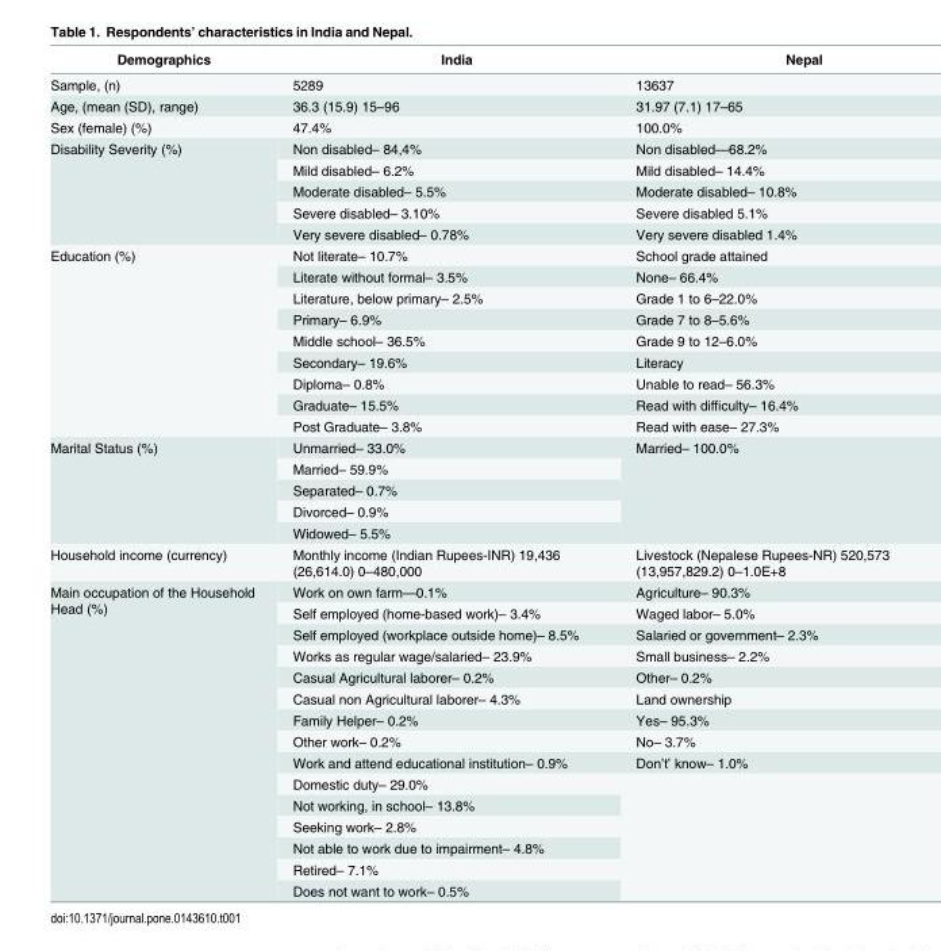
<table><thead><tr><td>Demographics</td><td>India</td><td>Nepal</td></tr></thead><tbody><tr><td>Sample, (n)</td><td>5289</td><td>13637</td></tr><tr><td>Age, (mean (SD), range)</td><td>36.3 (15.9) 15–96</td><td>31.97 (7.1) 17–65</td></tr><tr><td>Sex (female) (%)</td><td>47.4%</td><td>100.0%</td></tr><tr><td rowspan="5">Disability Severity (%)</td><td>Non disabled– 84,4%</td><td>Non disabled—68.2%</td></tr><tr><td>Mild disabled– 6.2%</td><td>Mild disabled– 14.4%</td></tr><tr><td>Moderate disabled– 5.5%</td><td>Moderate disabled– 10.8%</td></tr><tr><td>Severe disabled– 3.10%</td><td>Severe disabled 5.1%</td></tr><tr><td>Very severe disabled– 0.78%</td><td>Very severe disabled 1.4%</td></tr><tr><td rowspan="9">Education (%)</td><td>Not literate– 10.7%</td><td>School grade attained</td></tr><tr><td>Literate without formal– 3.5%</td><td>None– 66.4%</td></tr><tr><td>Literature, below primary– 2.5%</td><td>Grade 1 to 6–22.0%</td></tr><tr><td>Primary– 6.9%</td><td>Grade 7 to 8–5.6%</td></tr><tr><td>Middle school– 36.5%</td><td>Grade 9 to 12–6.0%</td></tr><tr><td>Secondary– 19.6%</td><td>Literacy</td></tr><tr><td>Diploma– 0.8%</td><td>Unable to read– 56.3%</td></tr><tr><td>Graduate– 15.5%</td><td>Read with difficulty– 16.4%</td></tr><tr><td>Post Graduate– 3.8%</td><td>Read with ease– 27.3%</td></tr><tr><td rowspan="5">Marital Status (%)</td><td>Unmarried– 33.0%</td><td rowspan="5">Married– 100.0%</td></tr><tr><td>Married– 59.9%</td></tr><tr><td>Separated– 0.7%</td></tr><tr><td>Divorced– 0.9%</td></tr><tr><td>Widowed– 5.5%</td></tr><tr><td>Household income (currency)</td><td>Monthly income (Indian Rupees-INR) 19,436 (26,614.0) 0–480,000</td><td>Livestock (Nepalese Rupees-NR) 520,573 (13,957,829.2) 0–1.0E+8</td></tr><tr><td rowspan="15">Main occupation of the Household Head (%)</td><td>Work on own farm—0.1%</td><td>Agriculture– 90.3%</td></tr><tr><td>Self employed (home-based work)– 3.4%</td><td>Waged labor– 5.0%</td></tr><tr><td>Self employed (workplace outside home)– 8.5%</td><td>Salaried or government– 2.3%</td></tr><tr><td>Works as regular wage/salaried– 23.9%</td><td>Small business– 2.2%</td></tr><tr><td>Casual Agricultural laborer– 0.2%</td><td>Other– 0.2%</td></tr><tr><td>Casual non Agricultural laborer– 4.3%</td><td>Land ownership</td></tr><tr><td>Family Helper– 0.2%</td><td>Yes– 95.3%</td></tr><tr><td>Other work– 0.2%</td><td>No– 3.7%</td></tr><tr><td>Work and attend educational institution– 0.9%</td><td>Don’t’ know– 1.0%</td></tr><tr><td>Domestic duty– 29.0%</td><td rowspan="6"></td></tr><tr><td>Not working, in school– 13.8%</td></tr><tr><td>Seeking work– 2.8%</td></tr><tr><td>Not able to work due to impairment– 4.8%</td></tr><tr><td>Retired– 7.1%</td></tr><tr><td>Does not want to work– 0.5%</td></tr></tbody></table>